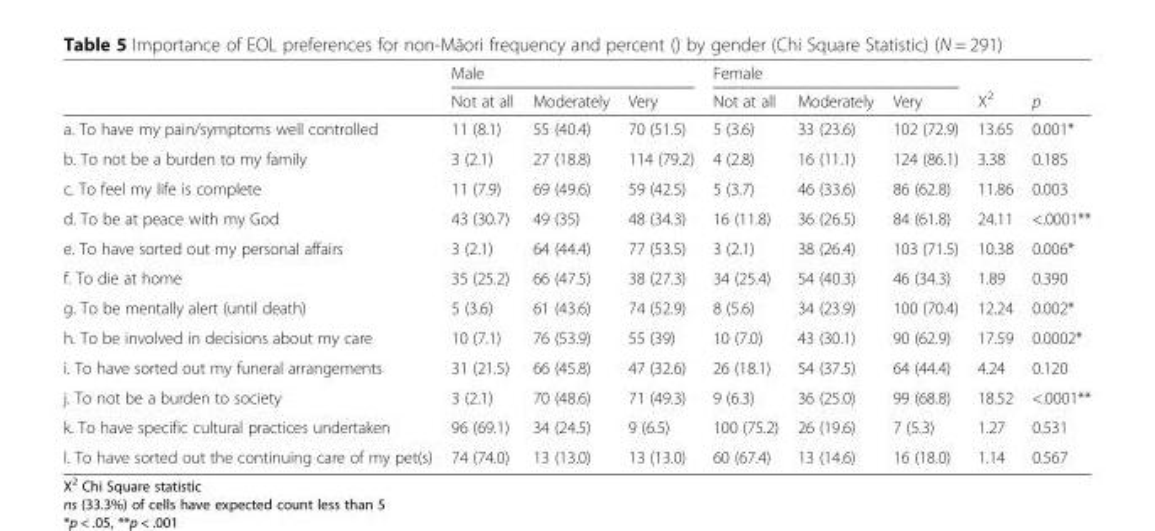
<table><thead><tr><td rowspan="2"></td><td colspan="3">Male</td><td colspan="3">Female</td><td rowspan="2">X<sup>2</sup></td><td rowspan="2">p</td></tr><tr><td>Not at all</td><td>Moderately</td><td>Very</td><td>Not at all</td><td>Moderately</td><td>Very</td></tr></thead><tbody><tr><td>a. To have my pain/symptoms well controlled</td><td>11 (8.1)</td><td>55 (40.4)</td><td>70 (51.5)</td><td>5 (3.6)</td><td>33 (23.6)</td><td>102 (72.9)</td><td>13.65</td><td>0.001*</td></tr><tr><td>b. To not be a burden to my family</td><td>3 (2.1)</td><td>27 (18.8)</td><td>114 (79.2)</td><td>4 (2.8)</td><td>16 (11.1)</td><td>124 (86.1)</td><td>3.38</td><td>0.185</td></tr><tr><td>c. To feel my life is complete</td><td>11 (7.9)</td><td>69 (49.6)</td><td>59 (42.5)</td><td>5 (3.7)</td><td>46 (33.6)</td><td>86 (62.8)</td><td>11.86</td><td>0.003</td></tr><tr><td>d. To be at peace with my God</td><td>43 (30.7)</td><td>49 (35)</td><td>48 (34.3)</td><td>16 (11.8)</td><td>36 (26.5)</td><td>84 (61.8)</td><td>24.11</td><td>&lt;.0001**</td></tr><tr><td>e. To have sorted out my personal affairs</td><td>3 (2.1)</td><td>64 (44.4)</td><td>77 (53.5)</td><td>3 (2.1)</td><td>38 (26.4)</td><td>103 (71.5)</td><td>10.38</td><td>0.006*</td></tr><tr><td>f. To die at home</td><td>35 (25.2)</td><td>66 (47.5)</td><td>38 (27.3)</td><td>34 (25.4)</td><td>54 (40.3)</td><td>46 (34.3)</td><td>1.89</td><td>0.390</td></tr><tr><td>g. To be mentally alert (until death)</td><td>5 (3.6)</td><td>61 (43.6)</td><td>74 (52.9)</td><td>8 (5.6)</td><td>34 (23.9)</td><td>100 (70.4)</td><td>12.24</td><td>0.002*</td></tr><tr><td>h. To be involved in decisions about my care</td><td>10 (7.1)</td><td>76 (53.9)</td><td>55 (39)</td><td>10 (7.0)</td><td>43 (30.1)</td><td>90 (62.9)</td><td>17.59</td><td>0.0002*</td></tr><tr><td>i. To have sorted out my funeral arrangements</td><td>31 (21.5)</td><td>66 (45.8)</td><td>47 (32.6)</td><td>26 (18.1)</td><td>54 (37.5)</td><td>64 (44.4)</td><td>4.24</td><td>0.120</td></tr><tr><td>j. To not be a burden to society</td><td>3 (2.1)</td><td>70 (48.6)</td><td>71 (49.3)</td><td>9 (6.3)</td><td>36 (25.0)</td><td>99 (68.8)</td><td>18.52</td><td>&lt;.0001**</td></tr><tr><td>k. To have specific cultural practices undertaken</td><td>96 (69.1)</td><td>34 (24.5)</td><td>9 (6.5)</td><td>100 (75.2)</td><td>26 (19.6)</td><td>7 (5.3)</td><td>1.27</td><td>0.531</td></tr><tr><td>l. To have sorted out the continuing care of my pet(s)</td><td>74 (74.0)</td><td>13 (13.0)</td><td>13 (13.0)</td><td>60 (67.4)</td><td>13 (14.6)</td><td>16 (18.0)</td><td>1.14</td><td>0.567</td></tr></tbody></table>